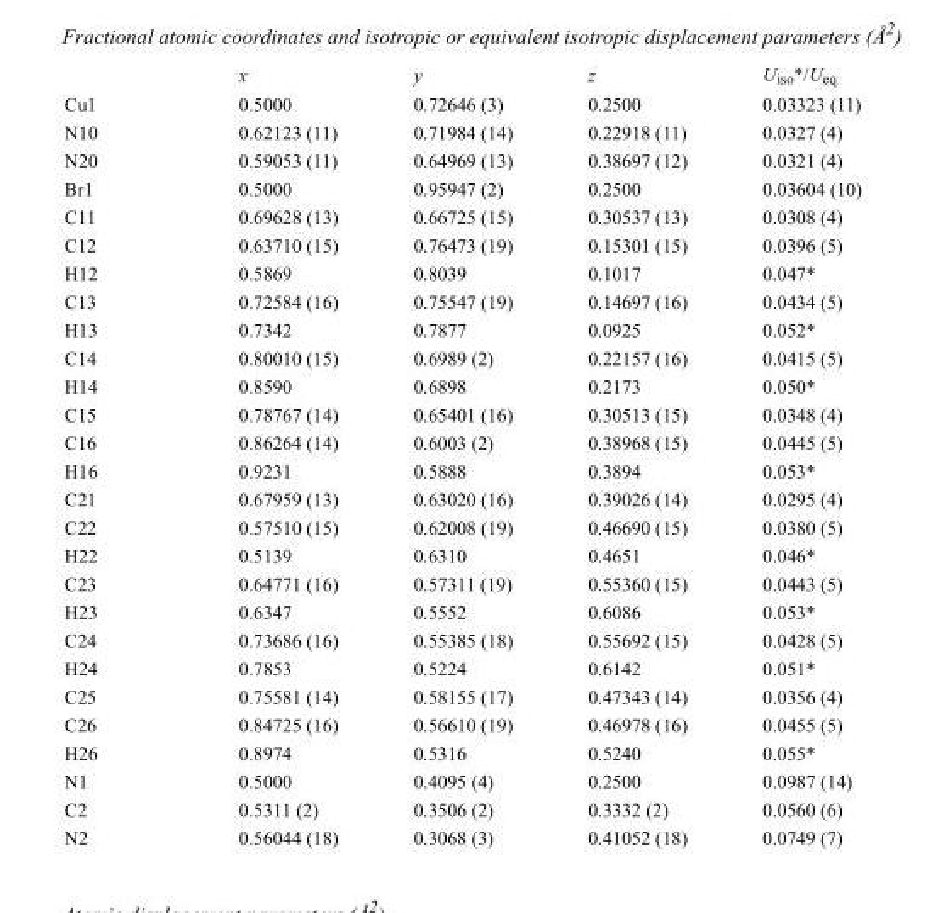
<table><thead><tr><td></td><td>x</td><td>y</td><td>z</td><td>U<sub>iso</sub>*/U<sub>eq</sub></td></tr></thead><tbody><tr><td>Cu1</td><td>0.5000</td><td>0.72646 (3)</td><td>0.2500</td><td>0.03323 (11)</td></tr><tr><td>N10</td><td>0.62123 (11)</td><td>0.71984 (14)</td><td>0.22918 (11)</td><td>0.0327 (4)</td></tr><tr><td>N20</td><td>0.59053 (11)</td><td>0.64969 (13)</td><td>0.38697 (12)</td><td>0.0321 (4)</td></tr><tr><td>Br1</td><td>0.5000</td><td>0.95947 (2)</td><td>0.2500</td><td>0.03604 (10)</td></tr><tr><td>C11</td><td>0.69628 (13)</td><td>0.66725 (15)</td><td>0.30537 (13)</td><td>0.0308 (4)</td></tr><tr><td>C12</td><td>0.63710 (15)</td><td>0.76473 (19)</td><td>0.15301 (15)</td><td>0.0396 (5)</td></tr><tr><td>H12</td><td>0.5869</td><td>0.8039</td><td>0.1017</td><td>0.047*</td></tr><tr><td>C13</td><td>0.72584 (16)</td><td>0.75547 (19)</td><td>0.14697 (16)</td><td>0.0434 (5)</td></tr><tr><td>H13</td><td>0.7342</td><td>0.7877</td><td>0.0925</td><td>0.052*</td></tr><tr><td>C14</td><td>0.80010 (15)</td><td>0.6989 (2)</td><td>0.22157 (16)</td><td>0.0415 (5)</td></tr><tr><td>H14</td><td>0.8590</td><td>0.6898</td><td>0.2173</td><td>0.050*</td></tr><tr><td>C15</td><td>0.78767 (14)</td><td>0.65401 (16)</td><td>0.30513 (15)</td><td>0.0348 (4)</td></tr><tr><td>C16</td><td>0.86264 (14)</td><td>0.6003 (2)</td><td>0.38968 (15)</td><td>0.0445 (5)</td></tr><tr><td>H16</td><td>0.9231</td><td>0.5888</td><td>0.3894</td><td>0.053*</td></tr><tr><td>C21</td><td>0.67959 (13)</td><td>0.63020 (16)</td><td>0.39026 (14)</td><td>0.0295 (4)</td></tr><tr><td>C22</td><td>0.57510 (15)</td><td>0.62008 (19)</td><td>0.46690 (15)</td><td>0.0380 (5)</td></tr><tr><td>H22</td><td>0.5139</td><td>0.6310</td><td>0.4651</td><td>0.046*</td></tr><tr><td>C23</td><td>0.64771 (16)</td><td>0.57311 (19)</td><td>0.55360 (15)</td><td>0.0443 (5)</td></tr><tr><td>H23</td><td>0.6347</td><td>0.5552</td><td>0.6086</td><td>0.053*</td></tr><tr><td>C24</td><td>0.73686 (16)</td><td>0.55385 (18)</td><td>0.55692 (15)</td><td>0.0428 (5)</td></tr><tr><td>H24</td><td>0.7853</td><td>0.5224</td><td>0.6142</td><td>0.051*</td></tr><tr><td>C25</td><td>0.75581 (14)</td><td>0.58155 (17)</td><td>0.47343 (14)</td><td>0.0356 (4)</td></tr><tr><td>C26</td><td>0.84725 (16)</td><td>0.56610 (19)</td><td>0.46978 (16)</td><td>0.0455 (5)</td></tr><tr><td>H26</td><td>0.8974</td><td>0.5316</td><td>0.5240</td><td>0.055*</td></tr><tr><td>N1</td><td>0.5000</td><td>0.4095 (4)</td><td>0.2500</td><td>0.0987 (14)</td></tr><tr><td>C2</td><td>0.5311 (2)</td><td>0.3506 (2)</td><td>0.3332 (2)</td><td>0.0560 (6)</td></tr><tr><td>N2</td><td>0.56044 (18)</td><td>0.3068 (3)</td><td>0.41052 (18)</td><td>0.0749 (7)</td></tr></tbody></table>